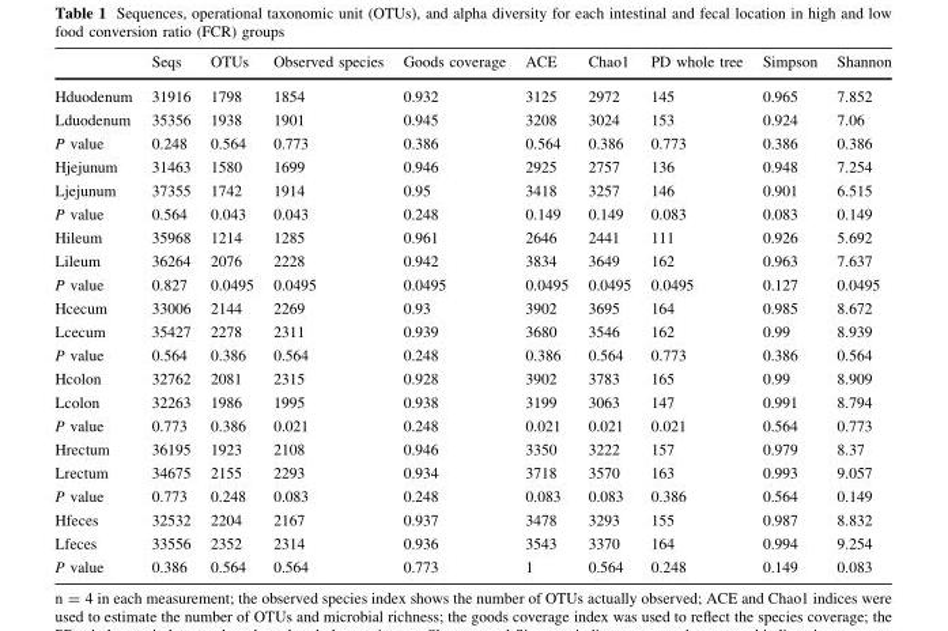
<table><thead><tr><td></td><td>Seqs</td><td>OTUs</td><td>Observed species</td><td>Goods coverage</td><td>ACE</td><td>Chao1</td><td>PD whole tree</td><td>Simpson</td><td>Shannon</td></tr></thead><tbody><tr><td>Hduodenum</td><td>31916</td><td>1798</td><td>1854</td><td>0.932</td><td>3125</td><td>2972</td><td>145</td><td>0.965</td><td>7.852</td></tr><tr><td>Lduodenum</td><td>35356</td><td>1938</td><td>1901</td><td>0.945</td><td>3208</td><td>3024</td><td>153</td><td>0.924</td><td>7.06</td></tr><tr><td>P value</td><td>0.248</td><td>0.564</td><td>0.773</td><td>0.386</td><td>0.564</td><td>0.386</td><td>0.773</td><td>0.386</td><td>0.386</td></tr><tr><td>Hjejunum</td><td>31463</td><td>1580</td><td>1699</td><td>0.946</td><td>2925</td><td>2757</td><td>136</td><td>0.948</td><td>7.254</td></tr><tr><td>Ljejunum</td><td>37355</td><td>1742</td><td>1914</td><td>0.95</td><td>3418</td><td>3257</td><td>146</td><td>0.901</td><td>6.515</td></tr><tr><td>P value</td><td>0.564</td><td>0.043</td><td>0.043</td><td>0.248</td><td>0.149</td><td>0.149</td><td>0.083</td><td>0.083</td><td>0.149</td></tr><tr><td>Hileum</td><td>35968</td><td>1214</td><td>1285</td><td>0.961</td><td>2646</td><td>2441</td><td>111</td><td>0.926</td><td>5.692</td></tr><tr><td>Lileum</td><td>36264</td><td>2076</td><td>2228</td><td>0.942</td><td>3834</td><td>3649</td><td>162</td><td>0.963</td><td>7.637</td></tr><tr><td>P value</td><td>0.827</td><td>0.0495</td><td>0.0495</td><td>0.0495</td><td>0.0495</td><td>0.0495</td><td>0.0495</td><td>0.127</td><td>0.0495</td></tr><tr><td>Hcecum</td><td>33006</td><td>2144</td><td>2269</td><td>0.93</td><td>3902</td><td>3695</td><td>164</td><td>0.985</td><td>8.672</td></tr><tr><td>Lcecum</td><td>35427</td><td>2278</td><td>2311</td><td>0.939</td><td>3680</td><td>3546</td><td>162</td><td>0.99</td><td>8.939</td></tr><tr><td>P value</td><td>0.564</td><td>0.386</td><td>0.564</td><td>0.248</td><td>0.386</td><td>0.564</td><td>0.773</td><td>0.386</td><td>0.564</td></tr><tr><td>Hcolon</td><td>32762</td><td>2081</td><td>2315</td><td>0.928</td><td>3902</td><td>3783</td><td>165</td><td>0.99</td><td>8.909</td></tr><tr><td>Lcolon</td><td>32263</td><td>1986</td><td>1995</td><td>0.938</td><td>3199</td><td>3063</td><td>147</td><td>0.991</td><td>8.794</td></tr><tr><td>P value</td><td>0.773</td><td>0.386</td><td>0.021</td><td>0.248</td><td>0.021</td><td>0.021</td><td>0.021</td><td>0.564</td><td>0.773</td></tr><tr><td>Hrectum</td><td>36195</td><td>1923</td><td>2108</td><td>0.946</td><td>3350</td><td>3222</td><td>157</td><td>0.979</td><td>8.37</td></tr><tr><td>Lrectum</td><td>34675</td><td>2155</td><td>2293</td><td>0.934</td><td>3718</td><td>3570</td><td>163</td><td>0.993</td><td>9.057</td></tr><tr><td>P value</td><td>0.773</td><td>0.248</td><td>0.083</td><td>0.248</td><td>0.083</td><td>0.083</td><td>0.386</td><td>0.564</td><td>0.149</td></tr><tr><td>Hfeces</td><td>32532</td><td>2204</td><td>2167</td><td>0.937</td><td>3478</td><td>3293</td><td>155</td><td>0.987</td><td>8.832</td></tr><tr><td>Lfeces</td><td>33556</td><td>2352</td><td>2314</td><td>0.936</td><td>3543</td><td>3370</td><td>164</td><td>0.994</td><td>9.254</td></tr><tr><td>P value</td><td>0.386</td><td>0.564</td><td>0.564</td><td>0.773</td><td>1</td><td>0.564</td><td>0.248</td><td>0.149</td><td>0.083</td></tr></tbody></table>